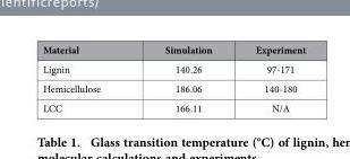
<table><thead><tr><td>Material</td><td>Simulation</td><td>Experiment</td></tr></thead><tbody><tr><td>Lignin</td><td>140.26</td><td>97-171</td></tr><tr><td>Hemicellulose</td><td>186.06</td><td>140-180</td></tr><tr><td>LCC</td><td>166.11</td><td>N/A</td></tr></tbody></table>